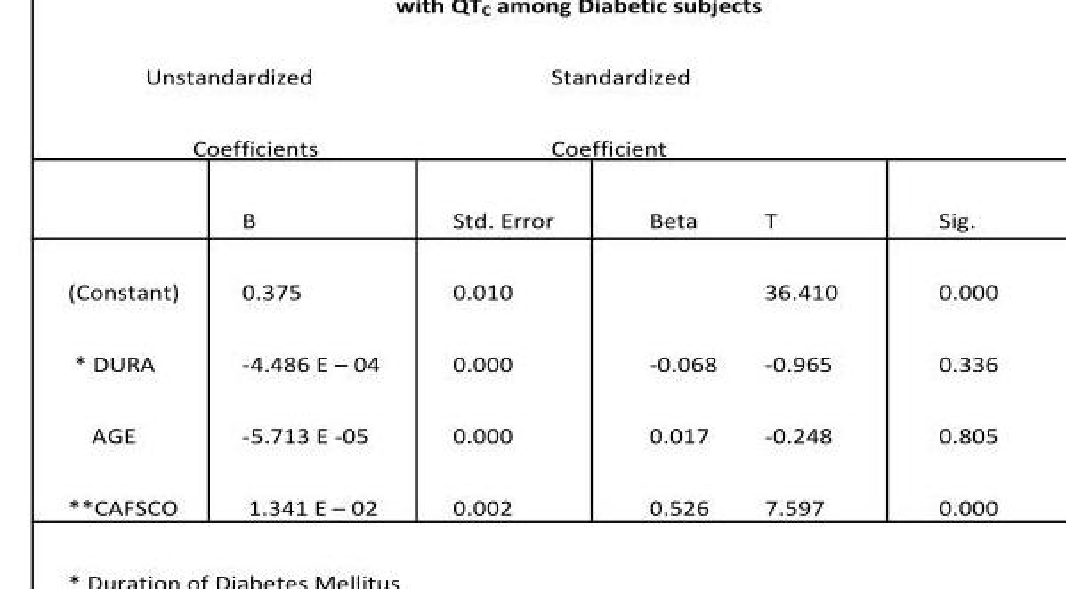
<table><thead><tr><td colspan="2">Unstandardized Coefficients</td><td colspan="3">Standardized Coefficient</td><td rowspan="2">Sig.</td></tr><tr><td></td><td>B</td><td>Std. Error</td><td>Beta</td><td>T</td></tr></thead><tbody><tr><td>(Constant)</td><td>0.375</td><td>0.010</td><td></td><td>36.410</td><td>0.000</td></tr><tr><td>* DURA</td><td>-4.486 E – 04</td><td>0.000</td><td>-0.068</td><td>-0.965</td><td>0.336</td></tr><tr><td>AGE</td><td>-5.713 E -05</td><td>0.000</td><td>0.017</td><td>-0.248</td><td>0.805</td></tr><tr><td>**CAFSCO</td><td>1.341 E – 02</td><td>0.002</td><td>0.526</td><td>7.597</td><td>0.000</td></tr></tbody></table>